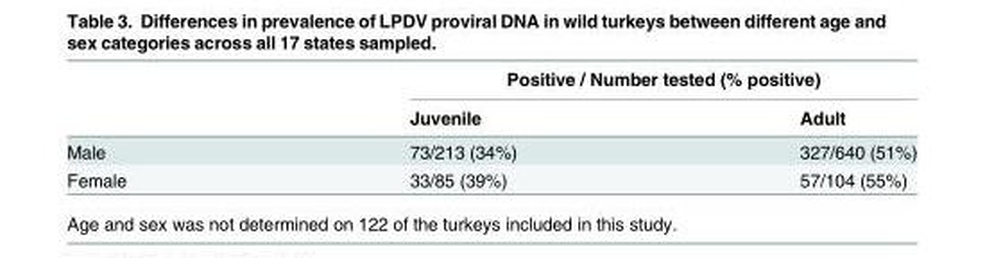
<table><thead><tr><td rowspan="2"></td><td colspan="2">Positive / Number tested (% positive)</td></tr><tr><td>Juvenile</td><td>Adult</td></tr></thead><tbody><tr><td>Male</td><td>73/213 (34%)</td><td>327/640 (51%)</td></tr><tr><td>Female</td><td>33/85 (39%)</td><td>57/104 (55%)</td></tr></tbody></table>